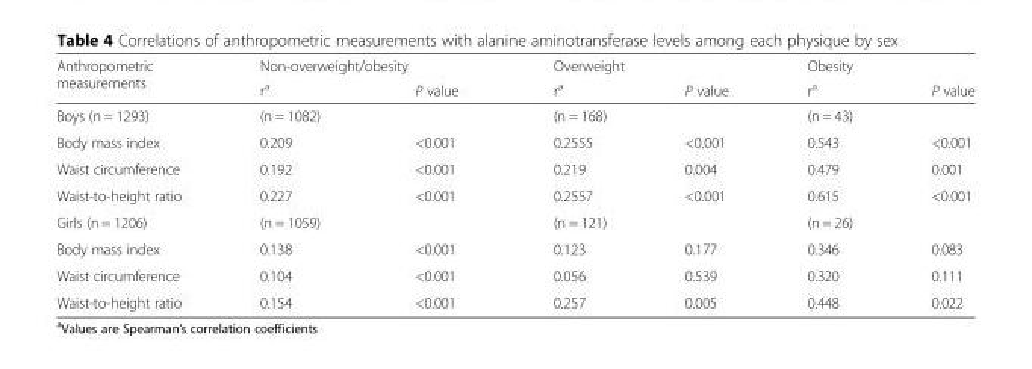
<table><thead><tr><td rowspan="2">Anthropometric measurements</td><td colspan="2">Non-overweight/obesity</td><td colspan="2">Overweight</td><td colspan="2">Obesity</td></tr><tr><td>r<sup>a</sup></td><td>P value</td><td>r<sup>a</sup></td><td>P value</td><td>r<sup>a</sup></td><td>P value</td></tr></thead><tbody><tr><td>Boys (n = 1293)</td><td>(n = 1082)</td><td></td><td>(n = 168)</td><td></td><td>(n = 43)</td><td></td></tr><tr><td>Body mass index</td><td>0.209</td><td>&lt;0.001</td><td>0.2555</td><td>&lt;0.001</td><td>0.543</td><td>&lt;0.001</td></tr><tr><td>Waist circumference</td><td>0.192</td><td>&lt;0.001</td><td>0.219</td><td>0.004</td><td>0.479</td><td>0.001</td></tr><tr><td>Waist-to-height ratio</td><td>0.227</td><td>&lt;0.001</td><td>0.2557</td><td>&lt;0.001</td><td>0.615</td><td>&lt;0.001</td></tr><tr><td>Girls (n = 1206)</td><td>(n = 1059)</td><td></td><td>(n = 121)</td><td></td><td>(n = 26)</td><td></td></tr><tr><td>Body mass index</td><td>0.138</td><td>&lt;0.001</td><td>0.123</td><td>0.177</td><td>0.346</td><td>0.083</td></tr><tr><td>Waist circumference</td><td>0.104</td><td>&lt;0.001</td><td>0.056</td><td>0.539</td><td>0.320</td><td>0.111</td></tr><tr><td>Waist-to-height ratio</td><td>0.154</td><td>&lt;0.001</td><td>0.257</td><td>0.005</td><td>0.448</td><td>0.022</td></tr></tbody></table>